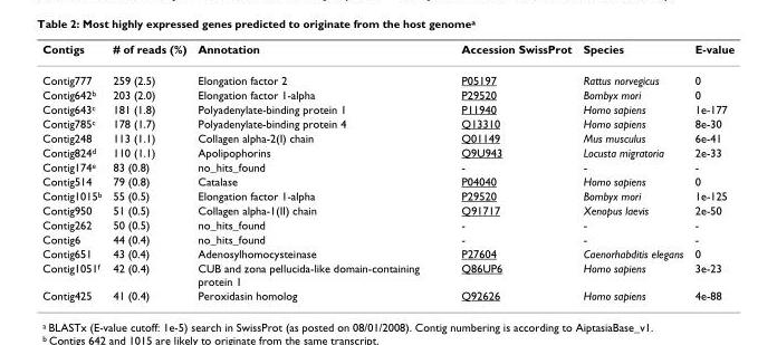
<table><thead><tr><td>Contigs</td><td># of reads (%)</td><td>Annotation</td><td>Accession SwissProt</td><td>Species</td><td>E-value</td></tr></thead><tbody><tr><td>Contig777</td><td>259 (2.5)</td><td>Elongation factor 2</td><td>P05197</td><td>Rattus norvegicus</td><td>0</td></tr><tr><td>Contig642<sup>b</sup></td><td>203 (2.0)</td><td>Elongation factor 1-alpha</td><td>P29520</td><td>Bombyx mori</td><td>0</td></tr><tr><td>Contig643<sup>c</sup></td><td>181 (1.8)</td><td>Polyadenylate-binding protein 1</td><td>P11940</td><td>Homo sapiens</td><td>1e-177</td></tr><tr><td>Contig785<sup>c</sup></td><td>178 (1.7)</td><td>Polyadenylate-binding protein 4</td><td>Q13310</td><td>Homo sapiens</td><td>8e-30</td></tr><tr><td>Contig248</td><td>113 (1.1)</td><td>Collagen alpha-2(I) chain</td><td>Q01149</td><td>Mus musculus</td><td>6e-41</td></tr><tr><td>Contig824<sup>d</sup></td><td>110 (1.1)</td><td>Apolipophorins</td><td>Q9U943</td><td>Locusta migratoria</td><td>2e-33</td></tr><tr><td>Contig174<sup>e</sup></td><td>83 (0.8)</td><td>no_hits_found</td><td>-</td><td>-</td><td>-</td></tr><tr><td>Contig514</td><td>79 (0.8)</td><td>Catalase</td><td>P04040</td><td>Homo sapiens</td><td>0</td></tr><tr><td>Contig1015<sup>b</sup></td><td>55 (0.5)</td><td>Elongation factor 1-alpha</td><td>P29520</td><td>Bombyx mori</td><td>1e-125</td></tr><tr><td>Contig950</td><td>51 (0.5)</td><td>Collagen alpha-1(II) chain</td><td>Q91717</td><td>Xenopus laevis</td><td>2e-50</td></tr><tr><td>Contig262</td><td>50 (0.5)</td><td>no_hits_found</td><td>-</td><td>-</td><td>-</td></tr><tr><td>Contig6</td><td>44 (0.4)</td><td>no_hits_found</td><td>-</td><td>-</td><td>-</td></tr><tr><td>Contig651</td><td>43 (0.4)</td><td>Adenosylhomocysteinase</td><td>P27604</td><td>Caenorhabditis elegans</td><td>0</td></tr><tr><td>Contig1051<sup>f</sup></td><td>42 (0.4)</td><td>CUB and zona pellucida-like domain-containing protein 1</td><td>Q86UP6</td><td>Homo sapiens</td><td>3e-23</td></tr><tr><td>Contig425</td><td>41 (0.4)</td><td>Peroxidasin homolog</td><td>Q92626</td><td>Homo sapiens</td><td>4e-88</td></tr></tbody></table>